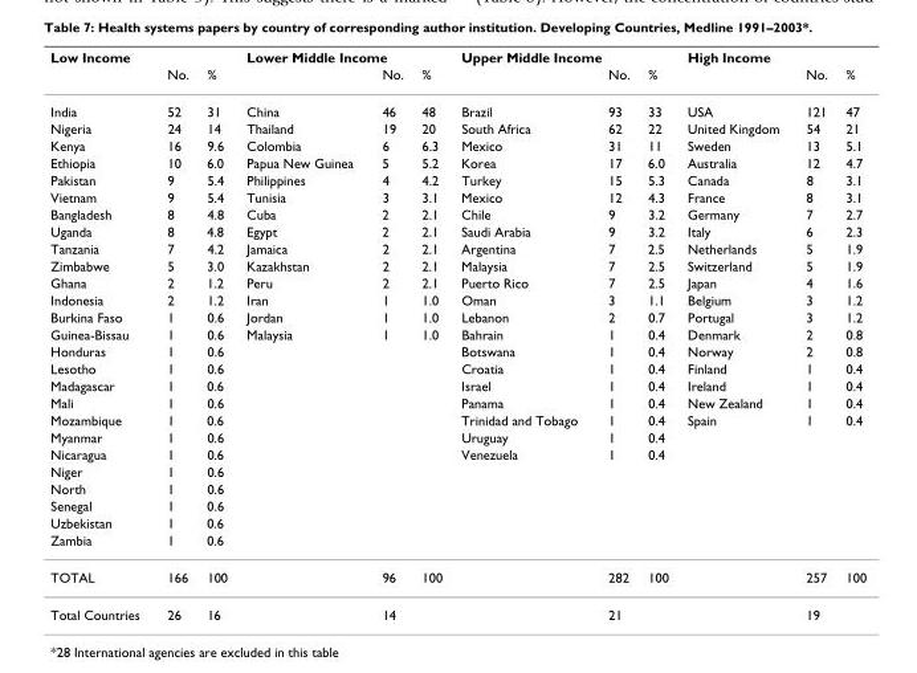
<table><thead><tr><td colspan="3">Low Income</td><td colspan="3">Lower Middle Income</td><td colspan="3">Upper Middle Income</td><td colspan="3">High Income</td></tr><tr><td></td><td>No.</td><td>%</td><td></td><td>No.</td><td>%</td><td></td><td>No.</td><td>%</td><td></td><td>No.</td><td>%</td></tr></thead><tbody><tr><td>India</td><td>52</td><td>31</td><td>China</td><td>46</td><td>48</td><td>Brazil</td><td>93</td><td>33</td><td>USA</td><td>121</td><td>47</td></tr><tr><td>Nigeria</td><td>24</td><td>14</td><td>Thailand</td><td>19</td><td>20</td><td>South Africa</td><td>62</td><td>22</td><td>United Kingdom</td><td>54</td><td>21</td></tr><tr><td>Kenya</td><td>16</td><td>9.6</td><td>Colombia</td><td>6</td><td>6.3</td><td>Mexico</td><td>31</td><td>11</td><td>Sweden</td><td>13</td><td>5.1</td></tr><tr><td>Ethiopia</td><td>10</td><td>6.0</td><td>Papua New Guinea</td><td>5</td><td>5.2</td><td>Korea</td><td>17</td><td>6.0</td><td>Australia</td><td>12</td><td>4.7</td></tr><tr><td>Pakistan</td><td>9</td><td>5.4</td><td>Philippines</td><td>4</td><td>4.2</td><td>Turkey</td><td>15</td><td>5.3</td><td>Canada</td><td>8</td><td>3.1</td></tr><tr><td>Vietnam</td><td>9</td><td>5.4</td><td>Tunisia</td><td>3</td><td>3.1</td><td>Mexico</td><td>12</td><td>4.3</td><td>France</td><td>8</td><td>3.1</td></tr><tr><td>Bangladesh</td><td>8</td><td>4.8</td><td>Cuba</td><td>2</td><td>2.1</td><td>Chile</td><td>9</td><td>3.2</td><td>Germany</td><td>7</td><td>2.7</td></tr><tr><td>Uganda</td><td>8</td><td>4.8</td><td>Egypt</td><td>2</td><td>2.1</td><td>Saudi Arabia</td><td>9</td><td>3.2</td><td>Italy</td><td>6</td><td>2.3</td></tr><tr><td>Tanzania</td><td>7</td><td>4.2</td><td>Jamaica</td><td>2</td><td>2.1</td><td>Argentina</td><td>7</td><td>2.5</td><td>Netherlands</td><td>5</td><td>1.9</td></tr><tr><td>Zimbabwe</td><td>5</td><td>3.0</td><td>Kazakhstan</td><td>2</td><td>2.1</td><td>Malaysia</td><td>7</td><td>2.5</td><td>Switzerland</td><td>5</td><td>1.9</td></tr><tr><td>Ghana</td><td>2</td><td>1.2</td><td>Peru</td><td>2</td><td>2.1</td><td>Puerto Rico</td><td>7</td><td>2.5</td><td>Japan</td><td>4</td><td>1.6</td></tr><tr><td>Indonesia</td><td>2</td><td>1.2</td><td>Iran</td><td>1</td><td>1.0</td><td>Oman</td><td>3</td><td>1.1</td><td>Belgium</td><td>3</td><td>1.2</td></tr><tr><td>Burkina Faso</td><td>1</td><td>0.6</td><td>Jordan</td><td>1</td><td>1.0</td><td>Lebanon</td><td>2</td><td>0.7</td><td>Portugal</td><td>3</td><td>1.2</td></tr><tr><td>Guinea-Bissau</td><td>1</td><td>0.6</td><td>Malaysia</td><td>1</td><td>1.0</td><td>Bahrain</td><td>1</td><td>0.4</td><td>Denmark</td><td>2</td><td>0.8</td></tr><tr><td>Honduras</td><td>1</td><td>0.6</td><td></td><td></td><td></td><td>Botswana</td><td>1</td><td>0.4</td><td>Norway</td><td>2</td><td>0.8</td></tr><tr><td>Lesotho</td><td>1</td><td>0.6</td><td></td><td></td><td></td><td>Croatia</td><td>1</td><td>0.4</td><td>Finland</td><td>1</td><td>0.4</td></tr><tr><td>Madagascar</td><td>1</td><td>0.6</td><td></td><td></td><td></td><td>Israel</td><td>1</td><td>0.4</td><td>Ireland</td><td>1</td><td>0.4</td></tr><tr><td>Mali</td><td>1</td><td>0.6</td><td></td><td></td><td></td><td>Panama</td><td>1</td><td>0.4</td><td>New Zealand</td><td>1</td><td>0.4</td></tr><tr><td>Mozambique</td><td>1</td><td>0.6</td><td></td><td></td><td></td><td>Trinidad and Tobago</td><td>1</td><td>0.4</td><td>Spain</td><td>1</td><td>0.4</td></tr><tr><td>Myanmar</td><td>1</td><td>0.6</td><td></td><td></td><td></td><td>Uruguay</td><td>1</td><td>0.4</td><td></td><td></td><td></td></tr><tr><td>Nicaragua</td><td>1</td><td>0.6</td><td></td><td></td><td></td><td>Venezuela</td><td>1</td><td>0.4</td><td></td><td></td><td></td></tr><tr><td>Niger</td><td>1</td><td>0.6</td><td></td><td></td><td></td><td></td><td></td><td></td><td></td><td></td><td></td></tr><tr><td>North</td><td>1</td><td>0.6</td><td></td><td></td><td></td><td></td><td></td><td></td><td></td><td></td><td></td></tr><tr><td>Senegal</td><td>1</td><td>0.6</td><td></td><td></td><td></td><td></td><td></td><td></td><td></td><td></td><td></td></tr><tr><td>Uzbekistan</td><td>1</td><td>0.6</td><td></td><td></td><td></td><td></td><td></td><td></td><td></td><td></td><td></td></tr><tr><td>Zambia</td><td>1</td><td>0.6</td><td></td><td></td><td></td><td></td><td></td><td></td><td></td><td></td><td></td></tr><tr><td>TOTAL</td><td>166</td><td>100</td><td></td><td>96</td><td>100</td><td></td><td>282</td><td>100</td><td></td><td>257</td><td>100</td></tr><tr><td>Total Countries</td><td>26</td><td>16</td><td></td><td>14</td><td></td><td></td><td>21</td><td></td><td></td><td>19</td><td></td></tr></tbody></table>